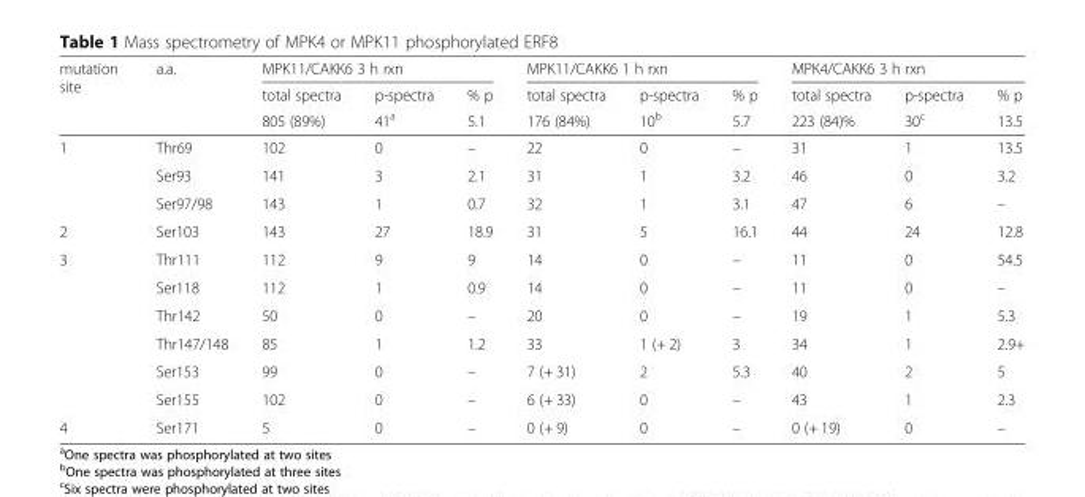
<table><thead><tr><td rowspan="3">mutation site</td><td rowspan="3">a.a.</td><td colspan="3">MPK11/CAKK6 3 h rxn</td><td colspan="3">MPK11/CAKK6 1 h rxn</td><td colspan="3">MPK4/CAKK6 3 h rxn</td></tr><tr><td rowspan="2">total spectra 805 (89%)</td><td rowspan="2">p-spectra 41<sup>a</sup></td><td rowspan="2">% p 5.1</td><td rowspan="2">total spectra 176 (84%)</td><td rowspan="2">p-spectra 10<sup>b</sup></td><td rowspan="2">% p 5.7</td><td rowspan="2">total spectra 223 (84)%</td><td rowspan="2">p-spectra 30<sup>c</sup></td><td rowspan="2">% p 13.5</td></tr><tr></tr></thead><tbody><tr><td rowspan="3">1</td><td>Thr69</td><td>102</td><td>0</td><td>–</td><td>22</td><td>0</td><td>–</td><td>31</td><td>1</td><td>13.5</td></tr><tr><td>Ser93</td><td>141</td><td>3</td><td>2.1</td><td>31</td><td>1</td><td>3.2</td><td>46</td><td>0</td><td>3.2</td></tr><tr><td>Ser97/98</td><td>143</td><td>1</td><td>0.7</td><td>32</td><td>1</td><td>3.1</td><td>47</td><td>6</td><td>–</td></tr><tr><td>2</td><td>Ser103</td><td>143</td><td>27</td><td>18.9</td><td>31</td><td>5</td><td>16.1</td><td>44</td><td>24</td><td>12.8</td></tr><tr><td rowspan="6">3</td><td>Thr111</td><td>112</td><td>9</td><td>9</td><td>14</td><td>0</td><td>–</td><td>11</td><td>0</td><td>54.5</td></tr><tr><td>Ser118</td><td>112</td><td>1</td><td>0.9</td><td>14</td><td>0</td><td>–</td><td>11</td><td>0</td><td>–</td></tr><tr><td>Thr142</td><td>50</td><td>0</td><td>–</td><td>20</td><td>0</td><td>–</td><td>19</td><td>1</td><td>5.3</td></tr><tr><td>Thr147/148</td><td>85</td><td>1</td><td>1.2</td><td>33</td><td>1 (+ 2)</td><td>3</td><td>34</td><td>1</td><td>2.9+</td></tr><tr><td>Ser153</td><td>99</td><td>0</td><td>–</td><td>7 (+ 31)</td><td>2</td><td>5.3</td><td>40</td><td>2</td><td>5</td></tr><tr><td>Ser155</td><td>102</td><td>0</td><td>–</td><td>6 (+ 33)</td><td>0</td><td>–</td><td>43</td><td>1</td><td>2.3</td></tr><tr><td>4</td><td>Ser171</td><td>5</td><td>0</td><td>–</td><td>0 (+ 9)</td><td>0</td><td>–</td><td>0 (+ 19)</td><td>0</td><td>–</td></tr></tbody></table>